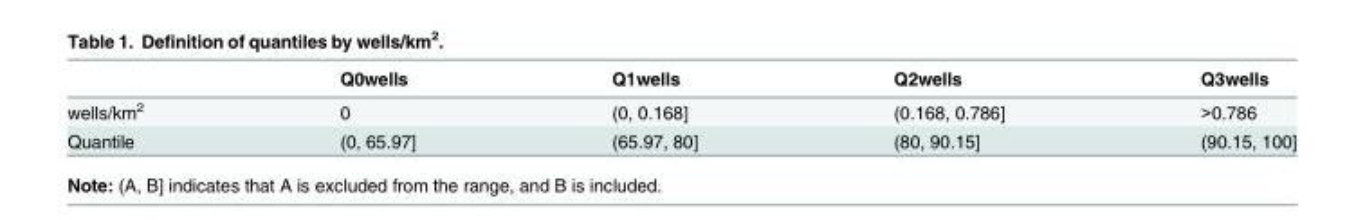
<table><thead><tr><td></td><td>Q0wells</td><td>Q1wells</td><td>Q2wells</td><td>Q3wells</td></tr></thead><tbody><tr><td>wells/km<sup>2</sup></td><td>0</td><td>(0, 0.168]</td><td>(0.168, 0.786]</td><td>&gt;0.786</td></tr><tr><td>Quantile</td><td>(0, 65.97]</td><td>(65.97, 80]</td><td>(80, 90.15]</td><td>(90.15, 100]</td></tr></tbody></table>